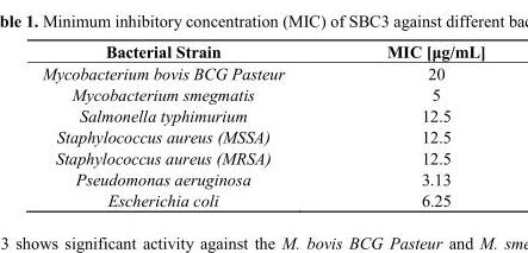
<table><thead><tr><td>Bacterial Strain</td><td>MIC [μg/mL]</td></tr></thead><tbody><tr><td>Mycobacterium bovis BCG Pasteur</td><td>20</td></tr><tr><td>Mycobacterium smegmatis</td><td>5</td></tr><tr><td>Salmonella typhimurium</td><td>12.5</td></tr><tr><td>Staphylococcus aureus (MSSA)</td><td>12.5</td></tr><tr><td>Staphylococcus aureus (MRSA)</td><td>12.5</td></tr><tr><td>Pseudomonas aeruginosa</td><td>3.13</td></tr><tr><td>Escherichia coli</td><td>6.25</td></tr></tbody></table>